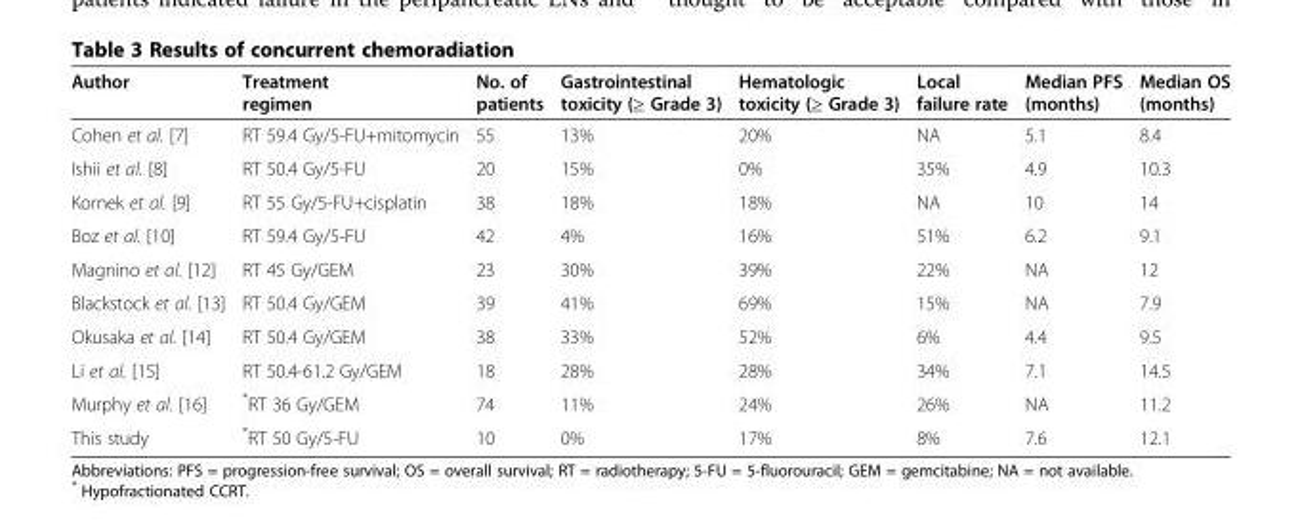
<table><thead><tr><td>Author</td><td>Treatment regimen</td><td>No. of patients</td><td>Gastrointestinal toxicity (≥ Grade 3)</td><td>Hematologic toxicity (≥ Grade 3)</td><td>Local failure rate</td><td>Median PFS (months)</td><td>Median OS (months)</td></tr></thead><tbody><tr><td>Cohen et al. [7]</td><td>RT 59.4 Gy/5-FU+mitomycin</td><td>55</td><td>13%</td><td>20%</td><td>NA</td><td>5.1</td><td>8.4</td></tr><tr><td>Ishii et al. [8]</td><td>RT 50.4 Gy/5-FU</td><td>20</td><td>15%</td><td>0%</td><td>35%</td><td>4.9</td><td>10.3</td></tr><tr><td>Kornek et al. [9]</td><td>RT 55 Gy/5-FU+cisplatin</td><td>38</td><td>18%</td><td>18%</td><td>NA</td><td>10</td><td>14</td></tr><tr><td>Boz et al. [10]</td><td>RT 59.4 Gy/5-FU</td><td>42</td><td>4%</td><td>16%</td><td>51%</td><td>6.2</td><td>9.1</td></tr><tr><td>Magnino et al. [12]</td><td>RT 45 Gy/GEM</td><td>23</td><td>30%</td><td>39%</td><td>22%</td><td>NA</td><td>12</td></tr><tr><td>Blackstock et al. [13]</td><td>RT 50.4 Gy/GEM</td><td>39</td><td>41%</td><td>69%</td><td>15%</td><td>NA</td><td>7.9</td></tr><tr><td>Okusaka et al. [14]</td><td>RT 50.4 Gy/GEM</td><td>38</td><td>33%</td><td>52%</td><td>6%</td><td>4.4</td><td>9.5</td></tr><tr><td>Li et al. [15]</td><td>RT 50.4-61.2 Gy/GEM</td><td>18</td><td>28%</td><td>28%</td><td>34%</td><td>7.1</td><td>14.5</td></tr><tr><td>Murphy et al. [16]</td><td>*RT 36 Gy/GEM</td><td>74</td><td>11%</td><td>24%</td><td>26%</td><td>NA</td><td>11.2</td></tr><tr><td>This study</td><td>*RT 50 Gy/5-FU</td><td>10</td><td>0%</td><td>17%</td><td>8%</td><td>7.6</td><td>12.1</td></tr></tbody></table>